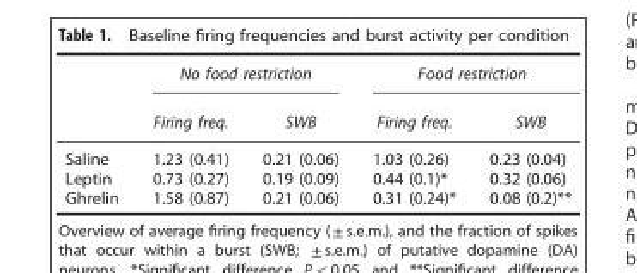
<table><thead><tr><td rowspan="2"></td><td colspan="2">No food restriction</td><td colspan="2">Food restriction</td></tr><tr><td>Firing freq.</td><td>SWB</td><td>Firing freq.</td><td>SWB</td></tr></thead><tbody><tr><td>Saline</td><td>1.23 (0.41)</td><td>0.21 (0.06)</td><td>1.03 (0.26)</td><td>0.23 (0.04)</td></tr><tr><td>Leptin</td><td>0.73 (0.27)</td><td>0.19 (0.09)</td><td>0.44 (0.1)*</td><td>0.32 (0.06)</td></tr><tr><td>Ghrelin</td><td>1.58 (0.87)</td><td>0.21 (0.06)</td><td>0.31 (0.24)*</td><td>0.08 (0.2)**</td></tr></tbody></table>